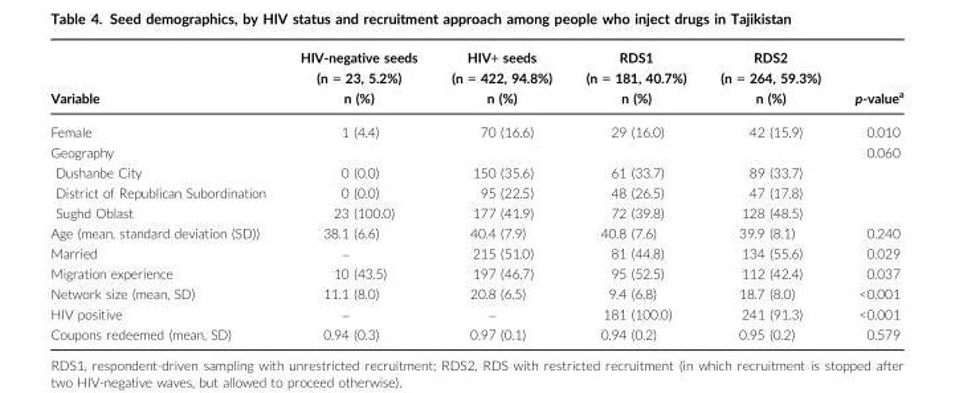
<table><thead><tr><td rowspan="2">Variable</td><td rowspan="2">HIV-negative seeds (n = 23, 5.2%) n (%)</td><td rowspan="2">HIV+ seeds (n = 422, 94.8%) n (%)</td><td rowspan="2">RDS1 (n = 181, 40.7%) n (%)</td><td rowspan="2">RDS2 (n = 264, 59.3%) n (%)</td><td rowspan="2">p-value<sup>a</sup></td></tr><tr></tr></thead><tbody><tr><td>Female</td><td>1 (4.4)</td><td>70 (16.6)</td><td>29 (16.0)</td><td>42 (15.9)</td><td>0.010</td></tr><tr><td colspan="5">Geography</td><td rowspan="4">0.060</td></tr><tr><td>Dushanbe City</td><td>0 (0.0)</td><td>150 (35.6)</td><td>61 (33.7)</td><td>89 (33.7)</td></tr><tr><td>District of Republican Subordination</td><td>0 (0.0)</td><td>95 (22.5)</td><td>48 (26.5)</td><td>47 (17.8)</td></tr><tr><td>Sughd Oblast</td><td>23 (100.0)</td><td>177 (41.9)</td><td>72 (39.8)</td><td>128 (48.5)</td></tr><tr><td>Age (mean, standard deviation (SD))</td><td>38.1 (6.6)</td><td>40.4 (7.9)</td><td>40.8 (7.6)</td><td>39.9 (8.1)</td><td>0.240</td></tr><tr><td>Married</td><td>–</td><td>215 (51.0)</td><td>81 (44.8)</td><td>134 (55.6)</td><td>0.029</td></tr><tr><td>Migration experience</td><td>10 (43.5)</td><td>197 (46.7)</td><td>95 (52.5)</td><td>112 (42.4)</td><td>0.037</td></tr><tr><td>Network size (mean, SD)</td><td>11.1 (8.0)</td><td>20.8 (6.5)</td><td>9.4 (6.8)</td><td>18.7 (8.0)</td><td>&lt;0.001</td></tr><tr><td>HIV positive</td><td>–</td><td>–</td><td>181 (100.0)</td><td>241 (91.3)</td><td>&lt;0.001</td></tr><tr><td>Coupons redeemed (mean, SD)</td><td>0.94 (0.3)</td><td>0.97 (0.1)</td><td>0.94 (0.2)</td><td>0.95 (0.2)</td><td>0.579</td></tr></tbody></table>